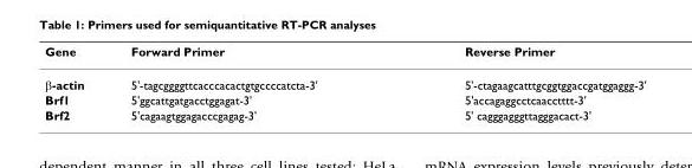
<table><thead><tr><td>Gene</td><td>Forward Primer</td><td>Reverse Primer</td></tr></thead><tbody><tr><td>β-actin</td><td>5&#x27;-tagcggggttcacccacactgtgccccatcta-3&#x27;</td><td>5&#x27;-ctagaagcatttgcggtggaccgatggaggg-3&#x27;</td></tr><tr><td>Brf1</td><td>5&#x27;ggcattgatgacctggagat-3&#x27;</td><td>5&#x27;accagaggcctcaacctttt-3&#x27;</td></tr><tr><td>Brf2</td><td>5&#x27;cagaagtggagacccgagag-3&#x27;</td><td>5&#x27; cagggagggttagggacact-3&#x27;</td></tr></tbody></table>